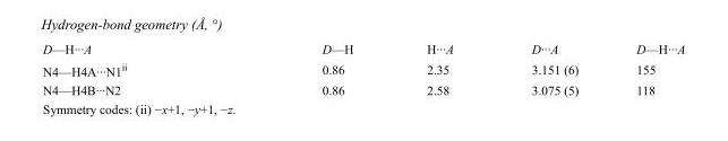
<table><tbody><tr><td>D—H···A</td><td>D—H</td><td>H···A</td><td>D···A</td><td>D—H···A</td></tr><tr><td>N4—H4A···N1<sup>ii</sup></td><td>0.86</td><td>2.35</td><td>3.151 (6)</td><td>155</td></tr><tr><td>N4—H4B···N2</td><td>0.86</td><td>2.58</td><td>3.075 (5)</td><td>118</td></tr></tbody></table>